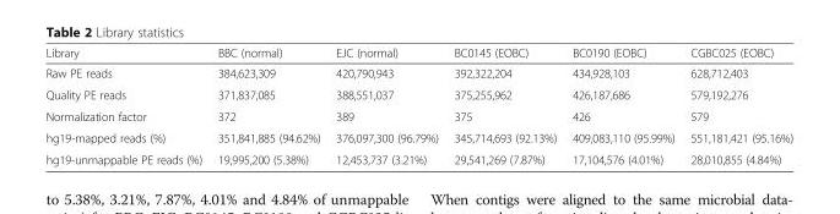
<table><thead><tr><td>Library</td><td>BBC (normal)</td><td>EJC (normal)</td><td>BC0145 (EOBC)</td><td>BC0190 (EOBC)</td><td>CGBC025 (EOBC)</td></tr></thead><tbody><tr><td>Raw PE reads</td><td>384,623,309</td><td>420,790,943</td><td>392,322,204</td><td>434,928,103</td><td>628,712,403</td></tr><tr><td>Quality PE reads</td><td>371,837,085</td><td>388,551,037</td><td>375,255,962</td><td>426,187,686</td><td>579,192,276</td></tr><tr><td>Normalization factor</td><td>372</td><td>389</td><td>375</td><td>426</td><td>579</td></tr><tr><td>hg19-mapped reads (%)</td><td>351,841,885 (94.62%)</td><td>376,097,300 (96.79%)</td><td>345,714,693 (92.13%)</td><td>409,083,110 (95.99%)</td><td>551,181,421 (95.16%)</td></tr><tr><td>hg19-unmappable PE reads (%)</td><td>19,995,200 (5.38%)</td><td>12,453,737 (3.21%)</td><td>29,541,269 (7.87%)</td><td>17,104,576 (4.01%)</td><td>28,010,855 (4.84%)</td></tr></tbody></table>